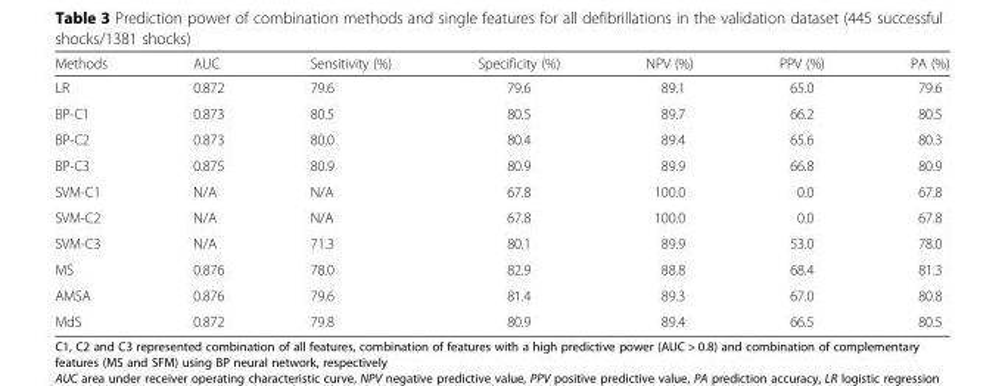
<table><thead><tr><td>Methods</td><td>AUC</td><td>Sensitivity (%)</td><td>Specificity (%)</td><td>NPV (%)</td><td>PPV (%)</td><td>PA (%)</td></tr></thead><tbody><tr><td>LR</td><td>0.872</td><td>79.6</td><td>79.6</td><td>89.1</td><td>65.0</td><td>79.6</td></tr><tr><td>BP-C1</td><td>0.873</td><td>80.5</td><td>80.5</td><td>89.7</td><td>66.2</td><td>80.5</td></tr><tr><td>BP-C2</td><td>0.873</td><td>80.0</td><td>80.4</td><td>89.4</td><td>65.6</td><td>80.3</td></tr><tr><td>BP-C3</td><td>0.875</td><td>80.9</td><td>80.9</td><td>89.9</td><td>66.8</td><td>80.9</td></tr><tr><td>SVM-C1</td><td>N/A</td><td>N/A</td><td>67.8</td><td>100.0</td><td>0.0</td><td>67.8</td></tr><tr><td>SVM-C2</td><td>N/A</td><td>N/A</td><td>67.8</td><td>100.0</td><td>0.0</td><td>67.8</td></tr><tr><td>SVM-C3</td><td>N/A</td><td>71.3</td><td>80.1</td><td>89.9</td><td>53.0</td><td>78.0</td></tr><tr><td>MS</td><td>0.876</td><td>78.0</td><td>82.9</td><td>88.8</td><td>68.4</td><td>81.3</td></tr><tr><td>AMSA</td><td>0.876</td><td>79.6</td><td>81.4</td><td>89.3</td><td>67.0</td><td>80.8</td></tr><tr><td>MdS</td><td>0.872</td><td>79.8</td><td>80.9</td><td>89.4</td><td>66.5</td><td>80.5</td></tr></tbody></table>